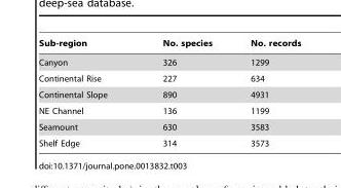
<table><thead><tr><td>Sub-region</td><td>No. species</td><td>No. records</td></tr></thead><tbody><tr><td>Canyon</td><td>326</td><td>1299</td></tr><tr><td>Continental Rise</td><td>227</td><td>634</td></tr><tr><td>Continental Slope</td><td>890</td><td>4931</td></tr><tr><td>NE Channel</td><td>136</td><td>1199</td></tr><tr><td>Seamount</td><td>630</td><td>3583</td></tr><tr><td>Shelf Edge</td><td>314</td><td>3573</td></tr></tbody></table>